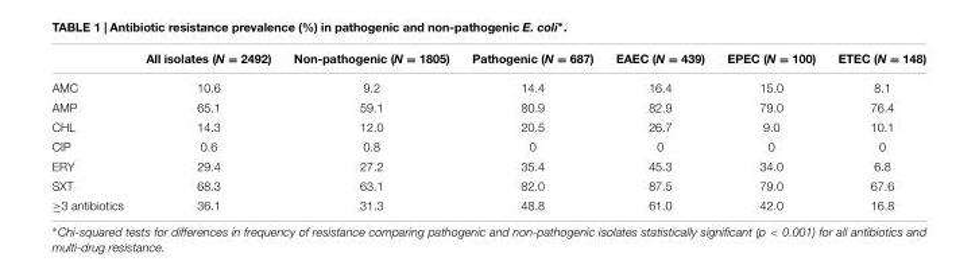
<table><thead><tr><td></td><td>All isolates (N = 2492)</td><td>Non-pathogenic (N = 1805)</td><td>Pathogenic (N = 687)</td><td>EAEC (N = 439)</td><td>EPEC (N = 100)</td><td>ETEC (N = 148)</td></tr></thead><tbody><tr><td>AMC</td><td>10.6</td><td>9.2</td><td>14.4</td><td>16.4</td><td>15.0</td><td>8.1</td></tr><tr><td>AMP</td><td>65.1</td><td>59.1</td><td>80.9</td><td>82.9</td><td>79.0</td><td>76.4</td></tr><tr><td>CHL</td><td>14.3</td><td>12.0</td><td>20.5</td><td>26.7</td><td>9.0</td><td>10.1</td></tr><tr><td>CIP</td><td>0.6</td><td>0.8</td><td>0</td><td>0</td><td>0</td><td>0</td></tr><tr><td>ERY</td><td>29.4</td><td>27.2</td><td>35.4</td><td>45.3</td><td>34.0</td><td>6.8</td></tr><tr><td>SXT</td><td>68.3</td><td>63.1</td><td>82.0</td><td>87.5</td><td>79.0</td><td>67.6</td></tr><tr><td>≥3 antibiotics</td><td>36.1</td><td>31.3</td><td>48.8</td><td>61.0</td><td>42.0</td><td>16.8</td></tr></tbody></table>